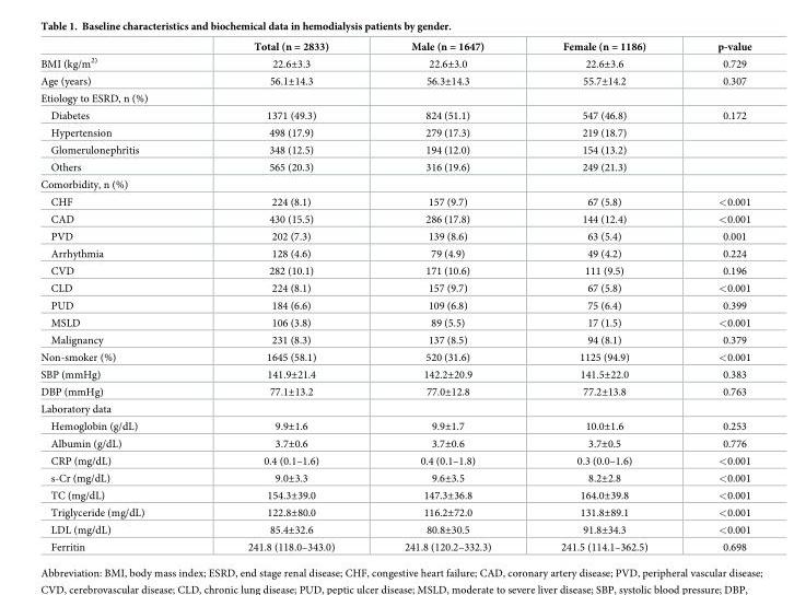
<table><thead><tr><td></td><td>Total (n = 2833)</td><td>Male (n = 1647)</td><td>Female (n = 1186)</td><td>p-value</td></tr></thead><tbody><tr><td>BMI (kg/m<sup>2)</sup></td><td>22.6±3.3</td><td>22.6±3.0</td><td>22.6±3.6</td><td>0.729</td></tr><tr><td>Age (years)</td><td>56.1±14.3</td><td>56.3±14.3</td><td>55.7±14.2</td><td>0.307</td></tr><tr><td colspan="5">Etiology to ESRD, n (%)</td></tr><tr><td>Diabetes</td><td>1371 (49.3)</td><td>824 (51.1)</td><td>547 (46.8)</td><td>0.172</td></tr><tr><td>Hypertension</td><td>498 (17.9)</td><td>279 (17.3)</td><td>219 (18.7)</td><td></td></tr><tr><td>Glomerulonephritis</td><td>348 (12.5)</td><td>194 (12.0)</td><td>154 (13.2)</td><td></td></tr><tr><td>Others</td><td>565 (20.3)</td><td>316 (19.6)</td><td>249 (21.3)</td><td></td></tr><tr><td colspan="5">Comorbidity, n (%)</td></tr><tr><td>CHF</td><td>224 (8.1)</td><td>157 (9.7)</td><td>67 (5.8)</td><td>&lt;0.001</td></tr><tr><td>CAD</td><td>430 (15.5)</td><td>286 (17.8)</td><td>144 (12.4)</td><td>&lt;0.001</td></tr><tr><td>PVD</td><td>202 (7.3)</td><td>139 (8.6)</td><td>63 (5.4)</td><td>0.001</td></tr><tr><td>Arrhythmia</td><td>128 (4.6)</td><td>79 (4.9)</td><td>49 (4.2)</td><td>0.224</td></tr><tr><td>CVD</td><td>282 (10.1)</td><td>171 (10.6)</td><td>111 (9.5)</td><td>0.196</td></tr><tr><td>CLD</td><td>224 (8.1)</td><td>157 (9.7)</td><td>67 (5.8)</td><td>&lt;0.001</td></tr><tr><td>PUD</td><td>184 (6.6)</td><td>109 (6.8)</td><td>75 (6.4)</td><td>0.399</td></tr><tr><td>MSLD</td><td>106 (3.8)</td><td>89 (5.5)</td><td>17 (1.5)</td><td>&lt;0.001</td></tr><tr><td>Malignancy</td><td>231 (8.3)</td><td>137 (8.5)</td><td>94 (8.1)</td><td>0.379</td></tr><tr><td>Non-smoker (%)</td><td>1645 (58.1)</td><td>520 (31.6)</td><td>1125 (94.9)</td><td>&lt;0.001</td></tr><tr><td>SBP (mmHg)</td><td>141.9±21.4</td><td>142.2±20.9</td><td>141.5±22.0</td><td>0.383</td></tr><tr><td>DBP (mmHg)</td><td>77.1±13.2</td><td>77.0±12.8</td><td>77.2±13.8</td><td>0.763</td></tr><tr><td colspan="5">Laboratory data</td></tr><tr><td>Hemoglobin (g/dL)</td><td>9.9±1.6</td><td>9.9±1.7</td><td>10.0±1.6</td><td>0.253</td></tr><tr><td>Albumin (g/dL)</td><td>3.7±0.6</td><td>3.7±0.6</td><td>3.7±0.5</td><td>0.776</td></tr><tr><td>CRP (mg/dL)</td><td>0.4 (0.1–1.6)</td><td>0.4 (0.1–1.8)</td><td>0.3 (0.0–1.6)</td><td>&lt;0.001</td></tr><tr><td>s-Cr (mg/dL)</td><td>9.0±3.3</td><td>9.6±3.5</td><td>8.2±2.8</td><td>&lt;0.001</td></tr><tr><td>TC (mg/dL)</td><td>154.3±39.0</td><td>147.3±36.8</td><td>164.0±39.8</td><td>&lt;0.001</td></tr><tr><td>Triglyceride (mg/dL)</td><td>122.8±80.0</td><td>116.2±72.0</td><td>131.8±89.1</td><td>&lt;0.001</td></tr><tr><td>LDL (mg/dL)</td><td>85.4±32.6</td><td>80.8±30.5</td><td>91.8±34.3</td><td>&lt;0.001</td></tr><tr><td>Ferritin</td><td>241.8 (118.0–343.0)</td><td>241.8 (120.2–332.3)</td><td>241.5 (114.1–362.5)</td><td>0.698</td></tr></tbody></table>